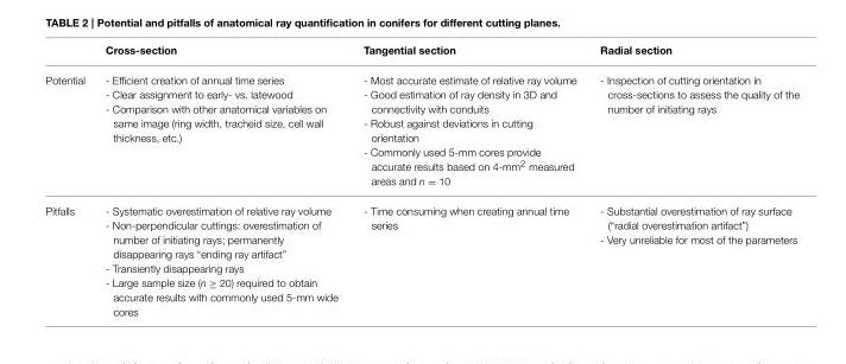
<table><thead><tr><td></td><td>Cross-section</td><td>Tangential section</td><td>Radial section</td></tr></thead><tbody><tr><td>Potential</td><td>- Efficient creation of annual time series - Clear assignment to early- vs. latewood - Comparison with other anatomical variables on same image (ring width, tracheid size, cell wall thickness, etc.)</td><td>- Most accurate estimate of relative ray volume - Good estimation of ray density in 3D and connectivity with conduits - Robust against deviations in cutting orientation - Commonly used 5-mm cores provide accurate results based on 4-mm<sup>2</sup> measured areas and n = 10</td><td>- Inspection of cutting orientation in cross-sections to assess the quality of the number of initiating rays</td></tr><tr><td>Pitfalls</td><td>- Systematic overestimation of relative ray volume - Non-perpendicular cuttings: overestimation of number of initiating rays; permanently disappearing rays “ending ray artifact” - Transiently disappearing rays - Large sample size (n ≥ 20) required to obtain accurate results with commonly used 5-mm wide cores</td><td>- Time consuming when creating annual time series</td><td>- Substantial overestimation of ray surface (“radial overestimation artifact”) - Very unreliable for most of the parameters</td></tr></tbody></table>